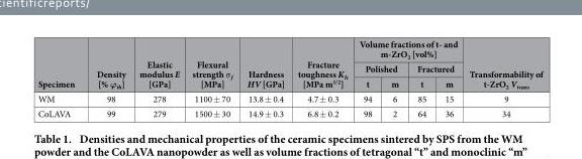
<table><thead><tr><td rowspan="3">Specimen</td><td rowspan="3">Density [% ϕ<sub>th</sub>]</td><td rowspan="3">Elastic modulus E [GPa]</td><td rowspan="3">Flexural strength σ <sub>f</sub> [MPa]</td><td rowspan="3">Hardness HV [GPa]</td><td rowspan="3">Fracture toughness K<sub>Ic</sub> [MPa m<sup>1/2</sup>]</td><td colspan="4">Volume fractions of t- and m-ZrO<sub>2</sub> [vol%]</td><td rowspan="3">Transformability of t-ZrO<sub>2</sub> V<sub>trans</sub></td></tr><tr><td colspan="2">Polished</td><td colspan="2">Fractured</td></tr><tr><td>t</td><td>m</td><td>t</td><td>m</td></tr></thead><tbody><tr><td>WM</td><td>98</td><td>278</td><td>1100 ± 70</td><td>13.8 ± 0.4</td><td>4.7 ± 0.3</td><td>94</td><td>6</td><td>85</td><td>15</td><td>9</td></tr><tr><td>CoLAVA</td><td>99</td><td>279</td><td>1500 ± 30</td><td>14.9 ± 0.3</td><td>6.8 ± 0.2</td><td>98</td><td>2</td><td>64</td><td>36</td><td>34</td></tr></tbody></table>